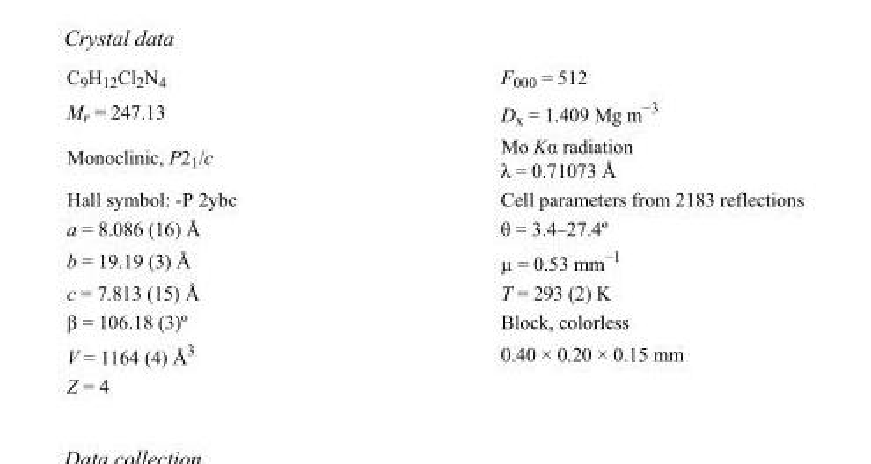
<table><tbody><tr><td>C<sub>9</sub>H<sub>12</sub>Cl<sub>2</sub>N<sub>4</sub></td><td>F<sub>000</sub> = 512</td></tr><tr><td>M<sub>r</sub> = 247.13</td><td>D<sub>x</sub> = 1.409 Mg m<sup>−3</sup></td></tr><tr><td>Monoclinic, P2<sub>1</sub>/c</td><td>Mo Kα radiation λ = 0.71073 Å</td></tr><tr><td>Hall symbol: -P 2ybc</td><td>Cell parameters from 2183 reflections</td></tr><tr><td>a = 8.086 (16) Å</td><td>θ = 3.4–27.4º</td></tr><tr><td>b = 19.19 (3) Å</td><td>µ = 0.53 mm<sup>−1</sup></td></tr><tr><td>c = 7.813 (15) Å</td><td>T = 293 (2) K</td></tr><tr><td>β = 106.18 (3)º</td><td>Block, colorless</td></tr><tr><td>V = 1164 (4) Å<sup>3</sup></td><td>0.40 × 0.20 × 0.15 mm</td></tr><tr><td>Z = 4</td><td></td></tr></tbody></table>